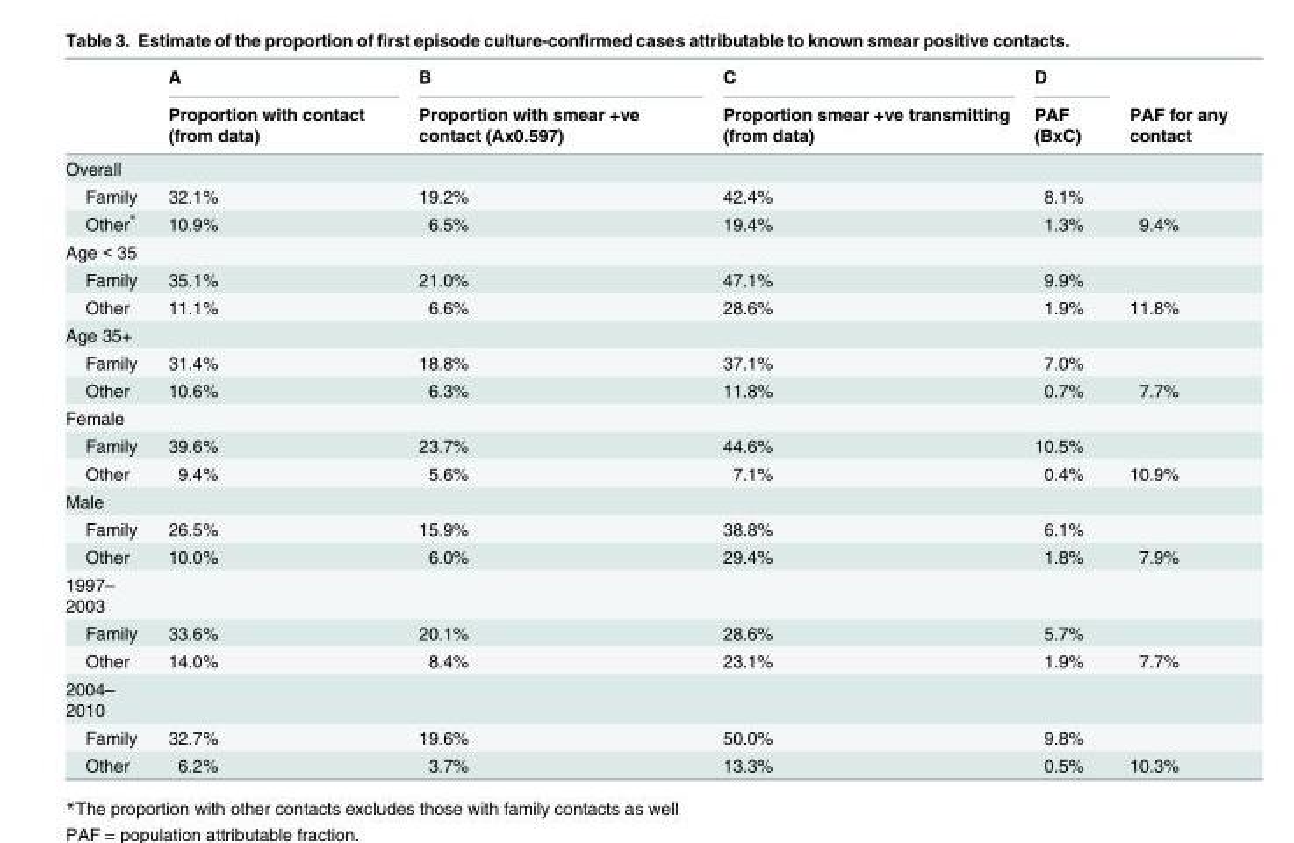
<table><thead><tr><td rowspan="2"></td><td rowspan="2">A Proportion with contact (from data)</td><td rowspan="2">B Proportion with smear +ve contact (Ax0.597)</td><td rowspan="2">C Proportion smear +ve transmitting (from data)</td><td rowspan="2">D PAF (BxC)</td><td rowspan="2">PAF for any contact</td></tr><tr></tr></thead><tbody><tr><td colspan="6">Overall</td></tr><tr><td>Family</td><td>32.1%</td><td>19.2%</td><td>42.4%</td><td>8.1%</td><td></td></tr><tr><td>Other*</td><td>10.9%</td><td>6.5%</td><td>19.4%</td><td>1.3%</td><td>9.4%</td></tr><tr><td colspan="6">Age &lt; 35</td></tr><tr><td>Family</td><td>35.1%</td><td>21.0%</td><td>47.1%</td><td>9.9%</td><td></td></tr><tr><td>Other</td><td>11.1%</td><td>6.6%</td><td>28.6%</td><td>1.9%</td><td>11.8%</td></tr><tr><td colspan="6">Age 35+</td></tr><tr><td>Family</td><td>31.4%</td><td>18.8%</td><td>37.1%</td><td>7.0%</td><td></td></tr><tr><td>Other</td><td>10.6%</td><td>6.3%</td><td>11.8%</td><td>0.7%</td><td>7.7%</td></tr><tr><td colspan="6">Female</td></tr><tr><td>Family</td><td>39.6%</td><td>23.7%</td><td>44.6%</td><td>10.5%</td><td></td></tr><tr><td>Other</td><td>9.4%</td><td>5.6%</td><td>7.1%</td><td>0.4%</td><td>10.9%</td></tr><tr><td colspan="6">Male</td></tr><tr><td>Family</td><td>26.5%</td><td>15.9%</td><td>38.8%</td><td>6.1%</td><td></td></tr><tr><td>Other</td><td>10.0%</td><td>6.0%</td><td>29.4%</td><td>1.8%</td><td>7.9%</td></tr><tr><td colspan="6">1997– 2003</td></tr><tr><td>Family</td><td>33.6%</td><td>20.1%</td><td>28.6%</td><td>5.7%</td><td></td></tr><tr><td>Other</td><td>14.0%</td><td>8.4%</td><td>23.1%</td><td>1.9%</td><td>7.7%</td></tr><tr><td colspan="6">2004– 2010</td></tr><tr><td>Family</td><td>32.7%</td><td>19.6%</td><td>50.0%</td><td>9.8%</td><td></td></tr><tr><td>Other</td><td>6.2%</td><td>3.7%</td><td>13.3%</td><td>0.5%</td><td>10.3%</td></tr></tbody></table>